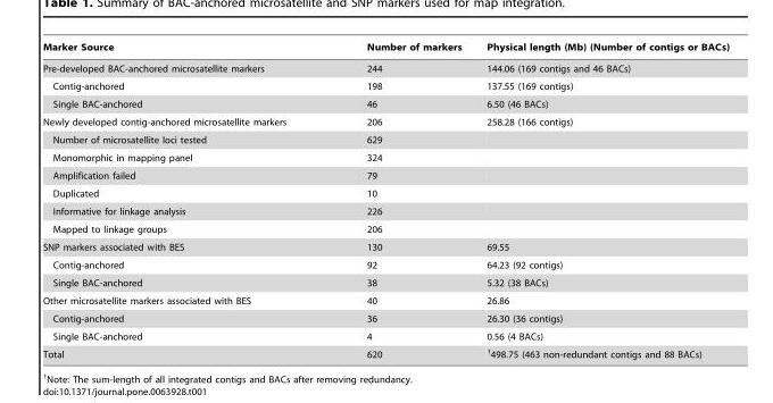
<table><thead><tr><td>Marker Source</td><td>Number of markers</td><td>Physical length (Mb) (Number of contigs or BACs)</td></tr></thead><tbody><tr><td>Pre-developed BAC-anchored microsatellite markers</td><td>244</td><td>144.06 (169 contigs and 46 BACs)</td></tr><tr><td>Contig-anchored</td><td>198</td><td>137.55 (169 contigs)</td></tr><tr><td>Single BAC-anchored</td><td>46</td><td>6.50 (46 BACs)</td></tr><tr><td>Newly developed contig-anchored microsatellite markers</td><td>206</td><td>258.28 (166 contigs)</td></tr><tr><td>Number of microsatellite loci tested</td><td>629</td><td></td></tr><tr><td>Monomorphic in mapping panel</td><td>324</td><td></td></tr><tr><td>Amplification failed</td><td>79</td><td></td></tr><tr><td>Duplicated</td><td>10</td><td></td></tr><tr><td>Informative for linkage analysis</td><td>226</td><td></td></tr><tr><td>Mapped to linkage groups</td><td>206</td><td></td></tr><tr><td>SNP markers associated with BES</td><td>130</td><td>69.55</td></tr><tr><td>Contig-anchored</td><td>92</td><td>64.23 (92 contigs)</td></tr><tr><td>Single BAC-anchored</td><td>38</td><td>5.32 (38 BACs)</td></tr><tr><td>Other microsatellite markers associated with BES</td><td>40</td><td>26.86</td></tr><tr><td>Contig-anchored</td><td>36</td><td>26.30 (36 contigs)</td></tr><tr><td>Single BAC-anchored</td><td>4</td><td>0.56 (4 BACs)</td></tr><tr><td>Total</td><td>620</td><td>1498.75 (463 non-redundant contigs and 88 BACs)</td></tr></tbody></table>